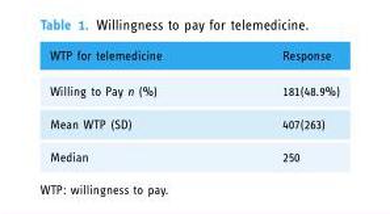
<table><thead><tr><td>WTP for telemedicine</td><td>Response</td></tr></thead><tbody><tr><td>Willing to Pay n (%)</td><td>181(48.9%)</td></tr><tr><td>Mean WTP (SD)</td><td>407(263)</td></tr><tr><td>Median</td><td>250</td></tr></tbody></table>